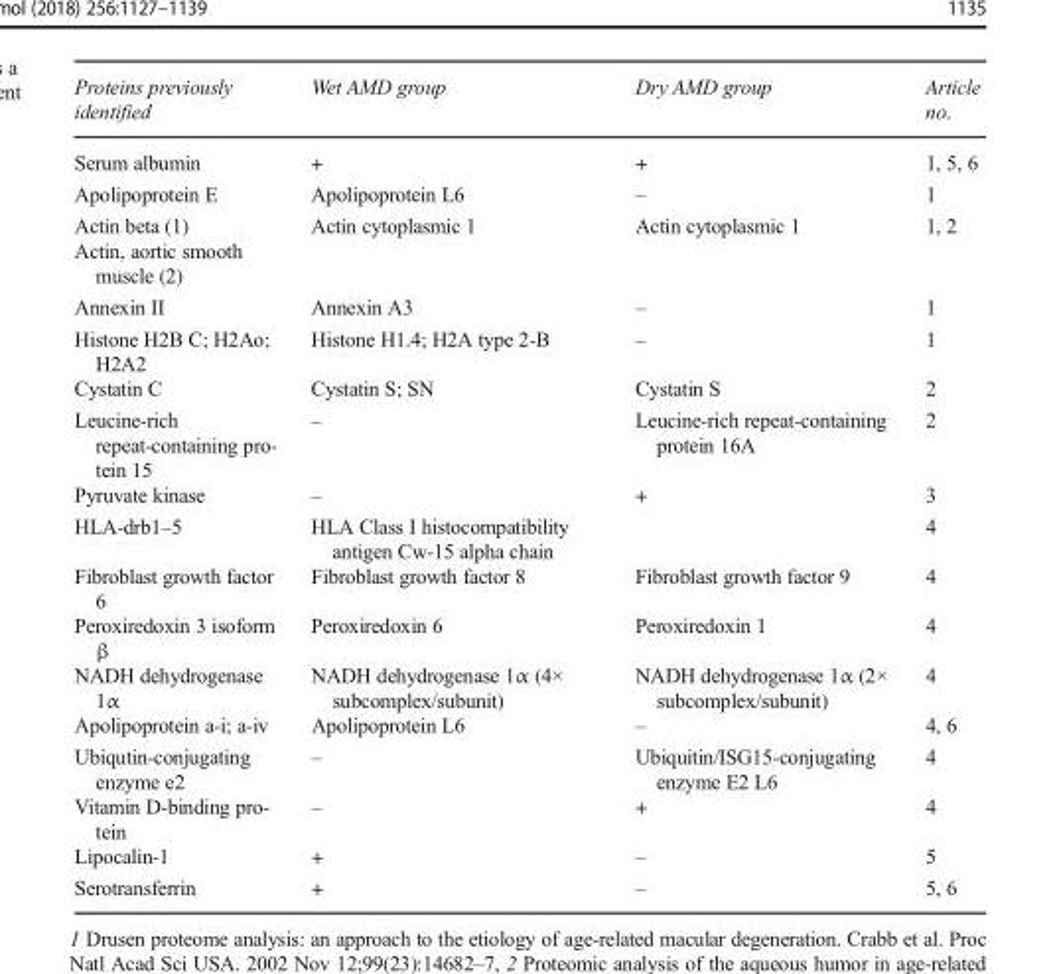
<table><thead><tr><td>Proteins previously identified</td><td>Wet AMD group</td><td>Dry AMD group</td><td>Article no.</td></tr></thead><tbody><tr><td>Serum albumin</td><td>+</td><td>+</td><td>1, 5, 6</td></tr><tr><td>Apolipoprotein E</td><td>Apolipoprotein L6</td><td>–</td><td>1</td></tr><tr><td>Actin beta (1)</td><td rowspan="2">Actin cytoplasmic 1</td><td rowspan="2">Actin cytoplasmic 1</td><td rowspan="2">1, 2</td></tr><tr><td>Actin, aortic smooth muscle (2)</td></tr><tr><td>Annexin II</td><td>Annexin A3</td><td>–</td><td>1</td></tr><tr><td>Histone H2B C; H2Ao; H2A2</td><td>Histone H1.4; H2A type 2-B</td><td>–</td><td>1</td></tr><tr><td>Cystatin C</td><td>Cystatin S; SN</td><td>Cystatin S</td><td>2</td></tr><tr><td>Leucine-rich repeat-containing pro- tein 15</td><td>–</td><td>Leucine-rich repeat-containing protein 16A</td><td>2</td></tr><tr><td>Pyruvate kinase</td><td>–</td><td>+</td><td>3</td></tr><tr><td>HLA-drb1–5</td><td>HLA Class I histocompatibility antigen Cw-15 alpha chain</td><td></td><td>4</td></tr><tr><td>Fibroblast growth factor 6</td><td>Fibroblast growth factor 8</td><td>Fibroblast growth factor 9</td><td>4</td></tr><tr><td>Peroxiredoxin 3 isoform β</td><td>Peroxiredoxin 6</td><td>Peroxiredoxin 1</td><td>4</td></tr><tr><td>NADH dehydrogenase 1α</td><td>NADH dehydrogenase 1α (4× subcomplex/subunit)</td><td>NADH dehydrogenase 1α (2× subcomplex/subunit)</td><td>4</td></tr><tr><td>Apolipoprotein a-i; a-iv</td><td>Apolipoprotein L6</td><td>–</td><td>4, 6</td></tr><tr><td>Ubiqutin-conjugating enzyme e2</td><td>–</td><td>Ubiquitin/ISG15-conjugating enzyme E2 L6</td><td>4</td></tr><tr><td>Vitamin D-binding pro- tein</td><td>–</td><td>+</td><td>4</td></tr><tr><td>Lipocalin-1</td><td>+</td><td>–</td><td>5</td></tr><tr><td>Serotransferrin</td><td>+</td><td>–</td><td>5, 6</td></tr></tbody></table>